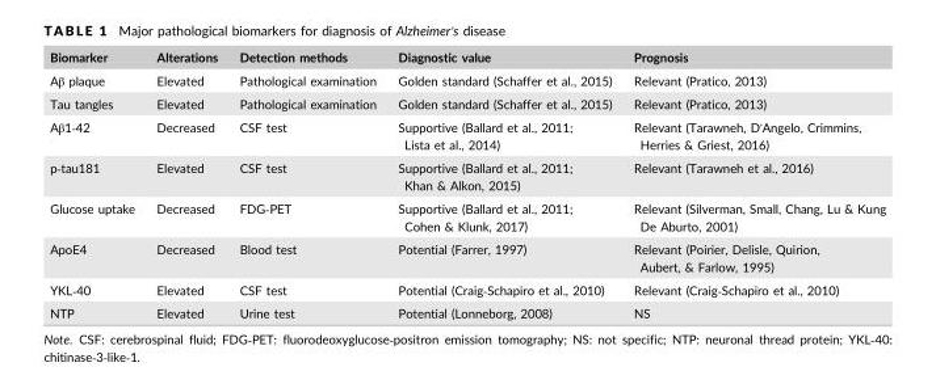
<table><thead><tr><td>Biomarker</td><td>Alterations</td><td>Detection methods</td><td>Diagnostic value</td><td>Prognosis</td></tr></thead><tbody><tr><td>Aβ plaque</td><td>Elevated</td><td>Pathological examination</td><td>Golden standard (Schaffer et al., 2015)</td><td>Relevant (Pratico, 2013)</td></tr><tr><td>Tau tangles</td><td>Elevated</td><td>Pathological examination</td><td>Golden standard (Schaffer et al., 2015)</td><td>Relevant (Pratico, 2013)</td></tr><tr><td>Aβ1‐42</td><td>Decreased</td><td>CSF test</td><td>Supportive (Ballard et al., 2011; Lista et al., 2014)</td><td>Relevant (Tarawneh, D&#x27;Angelo, Crimmins, Herries &amp; Griest, 2016)</td></tr><tr><td>p‐tau181</td><td>Elevated</td><td>CSF test</td><td>Supportive (Ballard et al., 2011; Khan &amp; Alkon, 2015)</td><td>Relevant (Tarawneh et al., 2016)</td></tr><tr><td>Glucose uptake</td><td>Decreased</td><td>FDG‐PET</td><td>Supportive (Ballard et al., 2011; Cohen &amp; Klunk, 2017)</td><td>Relevant (Silverman, Small, Chang, Lu &amp; Kung De Aburto, 2001)</td></tr><tr><td>ApoE4</td><td>Decreased</td><td>Blood test</td><td>Potential (Farrer, 1997)</td><td>Relevant (Poirier, Delisle, Quirion, Aubert, &amp; Farlow, 1995)</td></tr><tr><td>YKL‐40</td><td>Elevated</td><td>CSF test</td><td>Potential (Craig‐Schapiro et al., 2010)</td><td>Relevant (Craig‐Schapiro et al., 2010)</td></tr><tr><td>NTP</td><td>Elevated</td><td>Urine test</td><td>Potential (Lonneborg, 2008)</td><td>NS</td></tr></tbody></table>